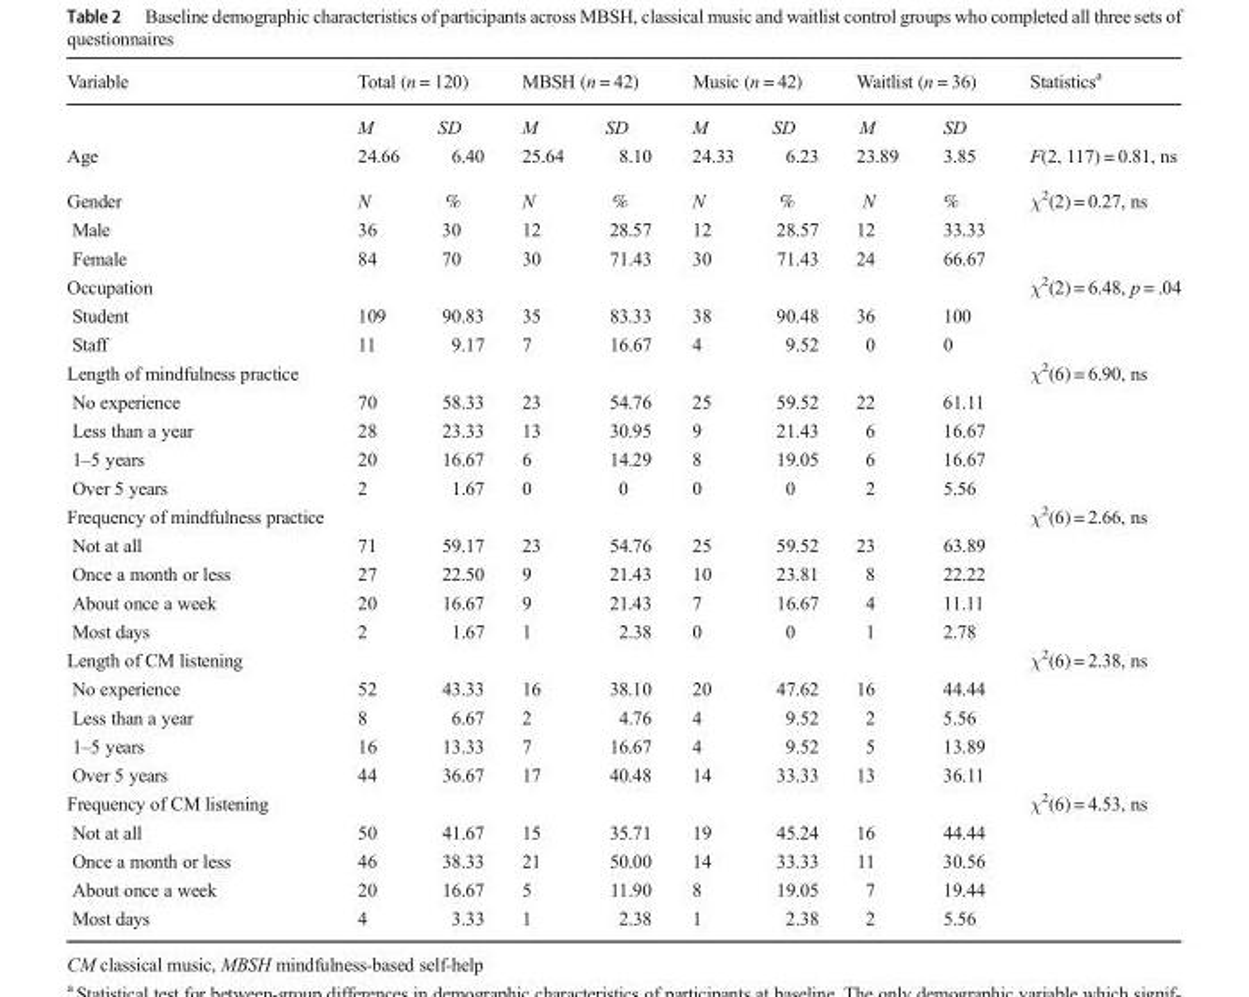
<table><thead><tr><td rowspan="2">Variable</td><td colspan="2">Total (n = 120)</td><td colspan="2">MBSH (n = 42)</td><td colspan="2">Music (n = 42)</td><td colspan="2">Waitlist (n = 36)</td><td rowspan="2">Statistics<sup>a</sup></td></tr><tr><td>M</td><td>SD</td><td>M</td><td>SD</td><td>M</td><td>SD</td><td>M</td><td>SD</td></tr></thead><tbody><tr><td>Age</td><td>24.66</td><td>6.40</td><td>25.64</td><td>8.10</td><td>24.33</td><td>6.23</td><td>23.89</td><td>3.85</td><td>F(2, 117) = 0.81, ns</td></tr><tr><td>Gender</td><td>N</td><td>%</td><td>N</td><td>%</td><td>N</td><td>%</td><td>N</td><td>%</td><td>χ<sup>2</sup>(2) = 0.27, ns</td></tr><tr><td>Male</td><td>36</td><td>30</td><td>12</td><td>28.57</td><td>12</td><td>28.57</td><td>12</td><td>33.33</td><td></td></tr><tr><td>Female</td><td>84</td><td>70</td><td>30</td><td>71.43</td><td>30</td><td>71.43</td><td>24</td><td>66.67</td><td></td></tr><tr><td>Occupation</td><td></td><td></td><td></td><td></td><td></td><td></td><td></td><td></td><td>χ<sup>2</sup>(2) = 6.48, p = .04</td></tr><tr><td>Student</td><td>109</td><td>90.83</td><td>35</td><td>83.33</td><td>38</td><td>90.48</td><td>36</td><td>100</td><td></td></tr><tr><td>Staff</td><td>11</td><td>9.17</td><td>7</td><td>16.67</td><td>4</td><td>9.52</td><td>0</td><td>0</td><td></td></tr><tr><td>Length of mindfulness practice</td><td></td><td></td><td></td><td></td><td></td><td></td><td></td><td></td><td>χ<sup>2</sup>(6) = 6.90, ns</td></tr><tr><td>No experience</td><td>70</td><td>58.33</td><td>23</td><td>54.76</td><td>25</td><td>59.52</td><td>22</td><td>61.11</td><td></td></tr><tr><td>Less than a year</td><td>28</td><td>23.33</td><td>13</td><td>30.95</td><td>9</td><td>21.43</td><td>6</td><td>16.67</td><td></td></tr><tr><td>1–5 years</td><td>20</td><td>16.67</td><td>6</td><td>14.29</td><td>8</td><td>19.05</td><td>6</td><td>16.67</td><td></td></tr><tr><td>Over 5 years</td><td>2</td><td>1.67</td><td>0</td><td>0</td><td>0</td><td>0</td><td>2</td><td>5.56</td><td></td></tr><tr><td>Frequency of mindfulness practice</td><td></td><td></td><td></td><td></td><td></td><td></td><td></td><td></td><td>χ<sup>2</sup>(6) = 2.66, ns</td></tr><tr><td>Not at all</td><td>71</td><td>59.17</td><td>23</td><td>54.76</td><td>25</td><td>59.52</td><td>23</td><td>63.89</td><td></td></tr><tr><td>Once a month or less</td><td>27</td><td>22.50</td><td>9</td><td>21.43</td><td>10</td><td>23.81</td><td>8</td><td>22.22</td><td></td></tr><tr><td>About once a week</td><td>20</td><td>16.67</td><td>9</td><td>21.43</td><td>7</td><td>16.67</td><td>4</td><td>11.11</td><td></td></tr><tr><td>Most days</td><td>2</td><td>1.67</td><td>1</td><td>2.38</td><td>0</td><td>0</td><td>1</td><td>2.78</td><td></td></tr><tr><td>Length of CM listening</td><td></td><td></td><td></td><td></td><td></td><td></td><td></td><td></td><td>χ<sup>2</sup>(6) = 2.38, ns</td></tr><tr><td>No experience</td><td>52</td><td>43.33</td><td>16</td><td>38.10</td><td>20</td><td>47.62</td><td>16</td><td>44.44</td><td></td></tr><tr><td>Less than a year</td><td>8</td><td>6.67</td><td>2</td><td>4.76</td><td>4</td><td>9.52</td><td>2</td><td>5.56</td><td></td></tr><tr><td>1–5 years</td><td>16</td><td>13.33</td><td>7</td><td>16.67</td><td>4</td><td>9.52</td><td>5</td><td>13.89</td><td></td></tr><tr><td>Over 5 years</td><td>44</td><td>36.67</td><td>17</td><td>40.48</td><td>14</td><td>33.33</td><td>13</td><td>36.11</td><td></td></tr><tr><td>Frequency of CM listening</td><td></td><td></td><td></td><td></td><td></td><td></td><td></td><td></td><td>χ<sup>2</sup>(6) = 4.53, ns</td></tr><tr><td>Not at all</td><td>50</td><td>41.67</td><td>15</td><td>35.71</td><td>19</td><td>45.24</td><td>16</td><td>44.44</td><td></td></tr><tr><td>Once a month or less</td><td>46</td><td>38.33</td><td>21</td><td>50.00</td><td>14</td><td>33.33</td><td>11</td><td>30.56</td><td></td></tr><tr><td>About once a week</td><td>20</td><td>16.67</td><td>5</td><td>11.90</td><td>8</td><td>19.05</td><td>7</td><td>19.44</td><td></td></tr><tr><td>Most days</td><td>4</td><td>3.33</td><td>1</td><td>2.38</td><td>1</td><td>2.38</td><td>2</td><td>5.56</td><td></td></tr></tbody></table>